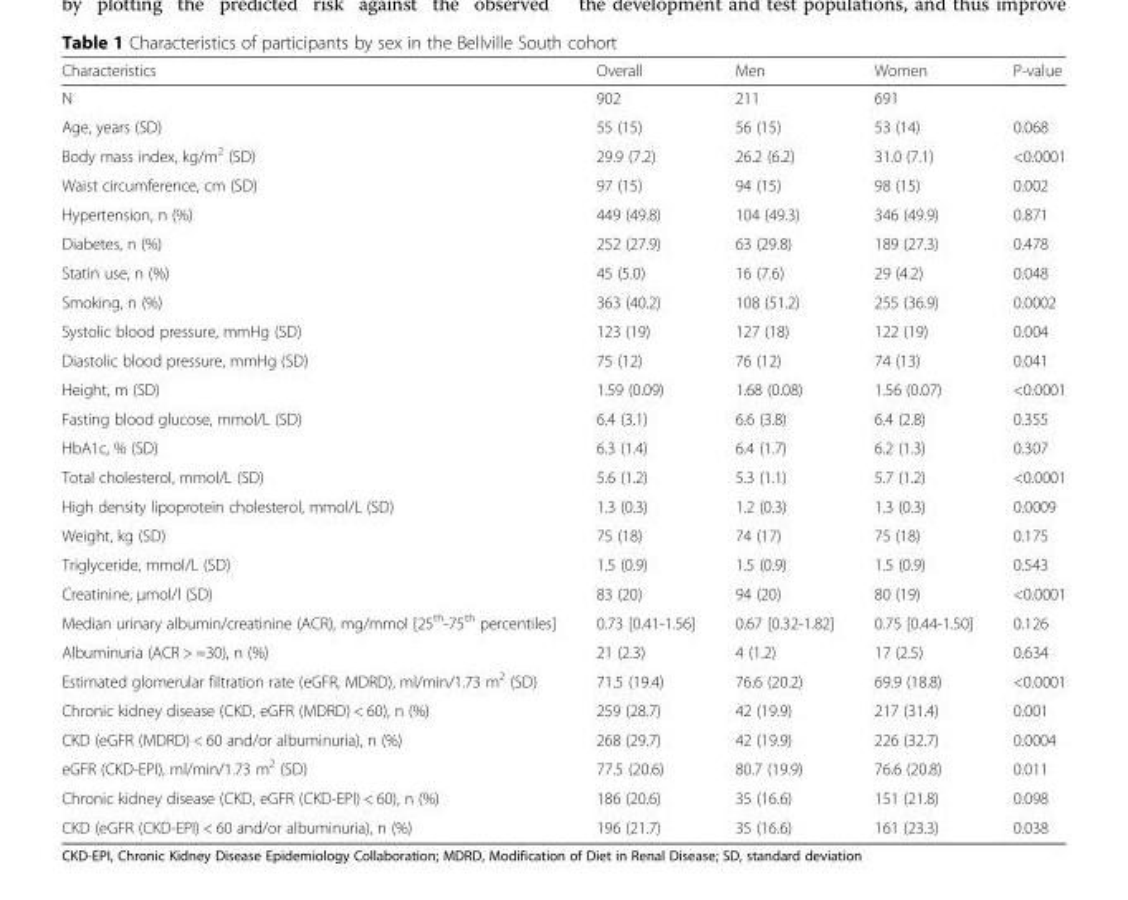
<table><thead><tr><td>Characteristics</td><td>Overall</td><td>Men</td><td>Women</td><td>P-value</td></tr></thead><tbody><tr><td>N</td><td>902</td><td>211</td><td>691</td><td></td></tr><tr><td>Age, years (SD)</td><td>55 (15)</td><td>56 (15)</td><td>53 (14)</td><td>0.068</td></tr><tr><td>Body mass index, kg/m<sup>2</sup> (SD)</td><td>29.9 (7.2)</td><td>26.2 (6.2)</td><td>31.0 (7.1)</td><td>&lt;0.0001</td></tr><tr><td>Waist circumference, cm (SD)</td><td>97 (15)</td><td>94 (15)</td><td>98 (15)</td><td>0.002</td></tr><tr><td>Hypertension, n (%)</td><td>449 (49.8)</td><td>104 (49.3)</td><td>346 (49.9)</td><td>0.871</td></tr><tr><td>Diabetes, n (%)</td><td>252 (27.9)</td><td>63 (29.8)</td><td>189 (27.3)</td><td>0.478</td></tr><tr><td>Statin use, n (%)</td><td>45 (5.0)</td><td>16 (7.6)</td><td>29 (4.2)</td><td>0.048</td></tr><tr><td>Smoking, n (%)</td><td>363 (40.2)</td><td>108 (51.2)</td><td>255 (36.9)</td><td>0.0002</td></tr><tr><td>Systolic blood pressure, mmHg (SD)</td><td>123 (19)</td><td>127 (18)</td><td>122 (19)</td><td>0.004</td></tr><tr><td>Diastolic blood pressure, mmHg (SD)</td><td>75 (12)</td><td>76 (12)</td><td>74 (13)</td><td>0.041</td></tr><tr><td>Height, m (SD)</td><td>1.59 (0.09)</td><td>1.68 (0.08)</td><td>1.56 (0.07)</td><td>&lt;0.0001</td></tr><tr><td>Fasting blood glucose, mmol/L (SD)</td><td>6.4 (3.1)</td><td>6.6 (3.8)</td><td>6.4 (2.8)</td><td>0.355</td></tr><tr><td>HbA1c, % (SD)</td><td>6.3 (1.4)</td><td>6.4 (1.7)</td><td>6.2 (1.3)</td><td>0.307</td></tr><tr><td>Total cholesterol, mmol/L (SD)</td><td>5.6 (1.2)</td><td>5.3 (1.1)</td><td>5.7 (1.2)</td><td>&lt;0.0001</td></tr><tr><td>High density lipoprotein cholesterol, mmol/L (SD)</td><td>1.3 (0.3)</td><td>1.2 (0.3)</td><td>1.3 (0.3)</td><td>0.0009</td></tr><tr><td>Weight, kg (SD)</td><td>75 (18)</td><td>74 (17)</td><td>75 (18)</td><td>0.175</td></tr><tr><td>Triglyceride, mmol/L (SD)</td><td>1.5 (0.9)</td><td>1.5 (0.9)</td><td>1.5 (0.9)</td><td>0.543</td></tr><tr><td>Creatinine, μmol/l (SD)</td><td>83 (20)</td><td>94 (20)</td><td>80 (19)</td><td>&lt;0.0001</td></tr><tr><td>Median urinary albumin/creatinine (ACR), mg/mmol [25<sup>th</sup>-75<sup>th</sup> percentiles]</td><td>0.73 [0.41-1.56]</td><td>0.67 [0.32-1.82]</td><td>0.75 [0.44-1.50]</td><td>0.126</td></tr><tr><td>Albuminuria (ACR &gt; =30), n (%)</td><td>21 (2.3)</td><td>4 (1.2)</td><td>17 (2.5)</td><td>0.634</td></tr><tr><td>Estimated glomerular filtration rate (eGFR, MDRD), ml/min/1.73 m<sup>2</sup> (SD)</td><td>71.5 (19.4)</td><td>76.6 (20.2)</td><td>69.9 (18.8)</td><td>&lt;0.0001</td></tr><tr><td>Chronic kidney disease (CKD, eGFR (MDRD) &lt; 60), n (%)</td><td>259 (28.7)</td><td>42 (19.9)</td><td>217 (31.4)</td><td>0.001</td></tr><tr><td>CKD (eGFR (MDRD) &lt; 60 and/or albuminuria), n (%)</td><td>268 (29.7)</td><td>42 (19.9)</td><td>226 (32.7)</td><td>0.0004</td></tr><tr><td>eGFR (CKD-EPI), ml/min/1.73 m<sup>2</sup> (SD)</td><td>77.5 (20.6)</td><td>80.7 (19.9)</td><td>76.6 (20.8)</td><td>0.011</td></tr><tr><td>Chronic kidney disease (CKD, eGFR (CKD-EPI) &lt; 60), n (%)</td><td>186 (20.6)</td><td>35 (16.6)</td><td>151 (21.8)</td><td>0.098</td></tr><tr><td>CKD (eGFR (CKD-EPI) &lt; 60 and/or albuminuria), n (%)</td><td>196 (21.7)</td><td>35 (16.6)</td><td>161 (23.3)</td><td>0.038</td></tr></tbody></table>